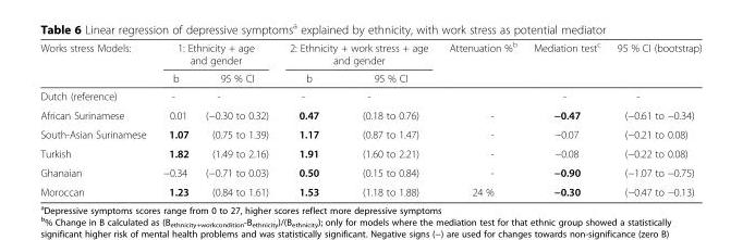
<table><thead><tr><td rowspan="2">Works stress Models:</td><td colspan="2">1: Ethnicity + age and gender</td><td colspan="2">2: Ethnicity + work stress + age and gender</td><td rowspan="2">Attenuation %<sup>b</sup></td><td rowspan="2">Mediation test<sup>c</sup></td><td rowspan="2">95 % CI (bootstrap)</td></tr><tr><td>b</td><td>95 % CI</td><td>b</td><td>95 % CI</td></tr></thead><tbody><tr><td>Dutch (reference)</td><td>-</td><td>-</td><td>-</td><td>-</td><td></td><td>-</td><td>-</td></tr><tr><td>African Surinamese</td><td>0.01</td><td>(−0.30 to 0.32)</td><td>0.47</td><td>(0.18 to 0.76)</td><td>-</td><td>−0.47</td><td>(−0.61 to −0.34)</td></tr><tr><td>South-Asian Surinamese</td><td>1.07</td><td>(0.75 to 1.39)</td><td>1.17</td><td>(0.87 to 1.47)</td><td>-</td><td>−0.07</td><td>(−0.21 to 0.08)</td></tr><tr><td>Turkish</td><td>1.82</td><td>(1.49 to 2.16)</td><td>1.91</td><td>(1.60 to 2.21)</td><td>-</td><td>−0.08</td><td>(−0.22 to 0.08)</td></tr><tr><td>Ghanaian</td><td>−0.34</td><td>(−0.71 to 0.03)</td><td>0.50</td><td>(0.15 to 0.84)</td><td>-</td><td>−0.90</td><td>(−1.07 to −0.75)</td></tr><tr><td>Moroccan</td><td>1.23</td><td>(0.84 to 1.61)</td><td>1.53</td><td>(1.18 to 1.88)</td><td>24 %</td><td>−0.30</td><td>(−0.47 to −0.13)</td></tr></tbody></table>